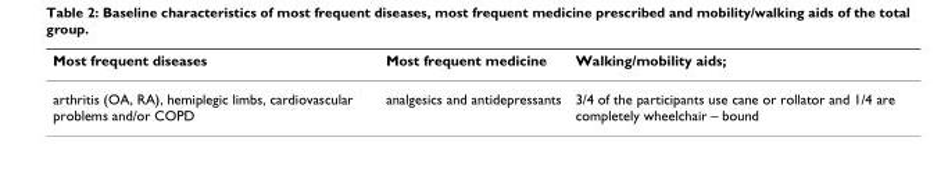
<table><thead><tr><td>Most frequent diseases</td><td>Most frequent medicine</td><td>Walking/mobility aids;</td></tr></thead><tbody><tr><td>arthritis (OA, RA), hemiplegic limbs, cardiovascular problems and/or COPD</td><td>analgesics and antidepressants</td><td>3/4 of the participants use cane or rollator and 1/4 are completely wheelchair – bound</td></tr></tbody></table>